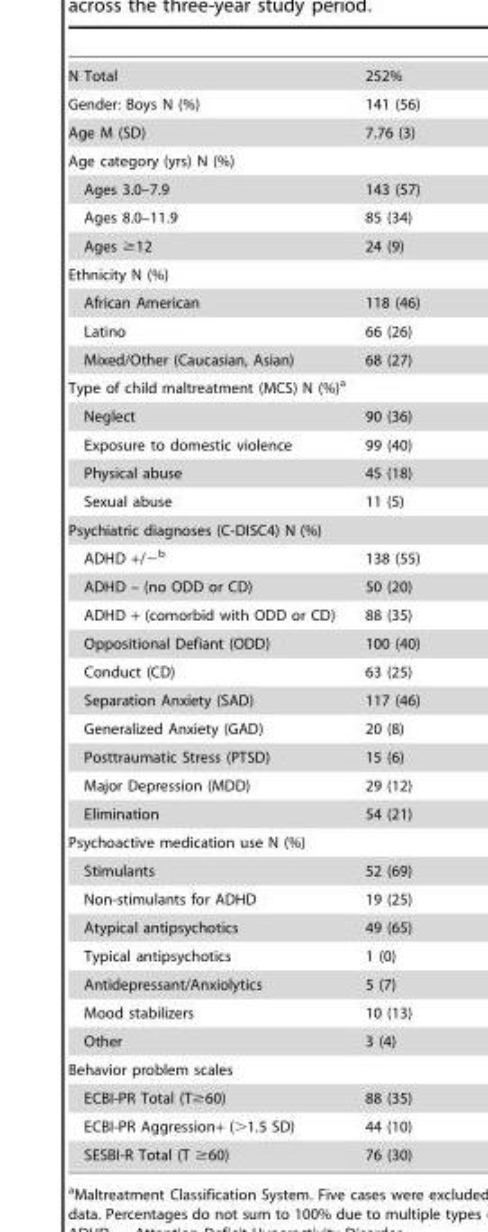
<table><tbody><tr><td>N Total</td><td>252%</td></tr><tr><td>Gender: Boys N (%)</td><td>141 (56)</td></tr><tr><td>Age M (SD)</td><td>7.76 (3)</td></tr><tr><td colspan="2">Age category (yrs) N (%)</td></tr><tr><td>Ages 3.0–7.9</td><td>143 (57)</td></tr><tr><td>Ages 8.0–11.9</td><td>85 (34)</td></tr><tr><td>Ages ≥12</td><td>24 (9)</td></tr><tr><td colspan="2">Ethnicity N (%)</td></tr><tr><td>African American</td><td>118 (46)</td></tr><tr><td>Latino</td><td>66 (26)</td></tr><tr><td>Mixed/Other (Caucasian, Asian)</td><td>68 (27)</td></tr><tr><td colspan="2">Type of child maltreatment (MCS) N (%)<sup>a</sup></td></tr><tr><td>Neglect</td><td>90 (36)</td></tr><tr><td>Exposure to domestic violence</td><td>99 (40)</td></tr><tr><td>Physical abuse</td><td>45 (18)</td></tr><tr><td>Sexual abuse</td><td>11 (5)</td></tr><tr><td colspan="2">Psychiatric diagnoses (C-DISC4) N (%)</td></tr><tr><td>ADHD +/−b</td><td>138 (55)</td></tr><tr><td>ADHD – (no ODD or CD)</td><td>50 (20)</td></tr><tr><td>ADHD + (comorbid with ODD or CD)</td><td>88 (35)</td></tr><tr><td>Oppositional Defiant (ODD)</td><td>100 (40)</td></tr><tr><td>Conduct (CD)</td><td>63 (25)</td></tr><tr><td>Separation Anxiety (SAD)</td><td>117 (46)</td></tr><tr><td>Generalized Anxiety (GAD)</td><td>20 (8)</td></tr><tr><td>Posttraumatic Stress (PTSD)</td><td>15 (6)</td></tr><tr><td>Major Depression (MDD)</td><td>29 (12)</td></tr><tr><td>Elimination</td><td>54 (21)</td></tr><tr><td colspan="2">Psychoactive medication use N (%)</td></tr><tr><td>Stimulants</td><td>52 (69)</td></tr><tr><td>Non-stimulants for ADHD</td><td>19 (25)</td></tr><tr><td>Atypical antipsychotics</td><td>49 (65)</td></tr><tr><td>Typical antipsychotics</td><td>1 (0)</td></tr><tr><td>Antidepressant/Anxiolytics</td><td>5 (7)</td></tr><tr><td>Mood stabilizers</td><td>10 (13)</td></tr><tr><td>Other</td><td>3 (4)</td></tr><tr><td colspan="2">Behavior problem scales</td></tr><tr><td>ECBI-PR Total (T≥60)</td><td>88 (35)</td></tr><tr><td>ECBI-PR Aggression+ (&gt;1.5 SD)</td><td>44 (10)</td></tr><tr><td>SESBI-R Total (T ≥60)</td><td>76 (30)</td></tr></tbody></table>